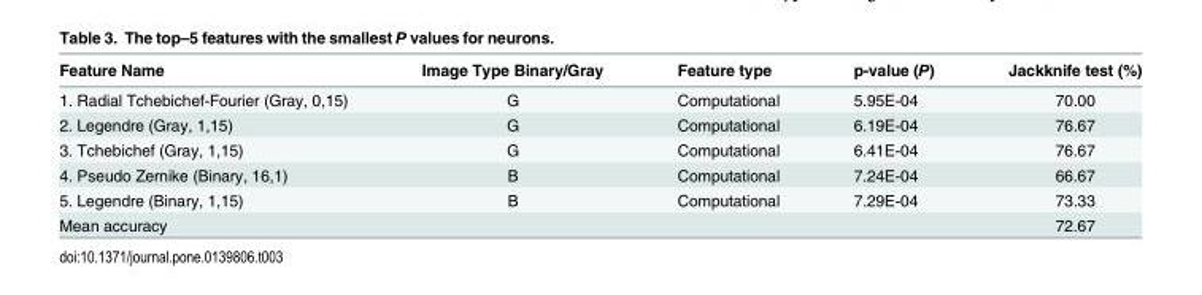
<table><thead><tr><td>Feature Name</td><td>Image Type Binary/Gray</td><td>Feature type</td><td>p-value (P)</td><td>Jackknife test (%)</td></tr></thead><tbody><tr><td>1. Radial Tchebichef-Fourier (Gray, 0,15)</td><td>G</td><td>Computational</td><td>5.95E-04</td><td>70.00</td></tr><tr><td>2. Legendre (Gray, 1,15)</td><td>G</td><td>Computational</td><td>6.19E-04</td><td>76.67</td></tr><tr><td>3. Tchebichef (Gray, 1,15)</td><td>G</td><td>Computational</td><td>6.41E-04</td><td>76.67</td></tr><tr><td>4. Pseudo Zernike (Binary, 16,1)</td><td>B</td><td>Computational</td><td>7.24E-04</td><td>66.67</td></tr><tr><td>5. Legendre (Binary, 1,15)</td><td>B</td><td>Computational</td><td>7.29E-04</td><td>73.33</td></tr><tr><td>Mean accuracy</td><td></td><td></td><td></td><td>72.67</td></tr></tbody></table>